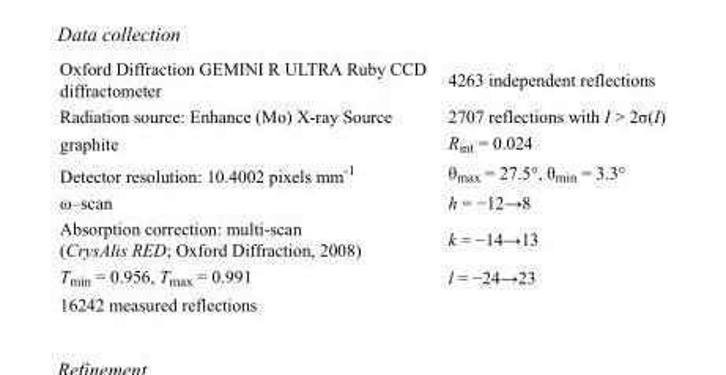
<table><tbody><tr><td>Oxford Diffraction GEMINI R ULTRA Ruby CCD diffractometer</td><td>4263 independent reflections</td></tr><tr><td>Radiation source: Enhance (Mo) X-ray Source</td><td>2707 reflections with I &gt; 2σ(I)</td></tr><tr><td>graphite</td><td>R<sub>int</sub> = 0.024</td></tr><tr><td>Detector resolution: 10.4002 pixels mm<sup>-1</sup></td><td>θ<sub>max</sub> = 27.5°, θ<sub>min</sub> = 3.3°</td></tr><tr><td>ω–scan</td><td>h = −12→8</td></tr><tr><td>Absorption correction: multi-scan (CrysAlis RED; Oxford Diffraction, 2008)</td><td>k = −14→13</td></tr><tr><td>T<sub>min</sub> = 0.956, T<sub>max</sub> = 0.991</td><td>l = −24→23</td></tr><tr><td>16242 measured reflections</td><td></td></tr></tbody></table>